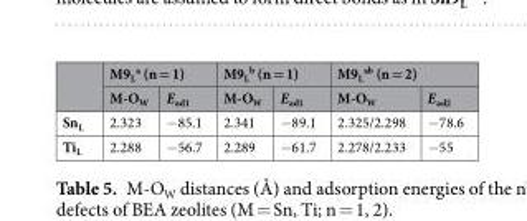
<table><thead><tr><td rowspan="2"></td><td colspan="2">M9<sub>L</sub> <sup>a</sup> (n = 1)</td><td colspan="2">M9<sub>L</sub> <sup>b</sup> (n = 1)</td><td colspan="2">M9<sub>L</sub> <sup>ab</sup> (n = 2)</td></tr><tr><td>M-O<sub>W</sub></td><td>E<sub>ad1</sub></td><td>M-O<sub>W</sub></td><td>E<sub>ad1</sub></td><td>M-O<sub>W</sub></td><td>E<sub>ad2</sub></td></tr></thead><tbody><tr><td>Sn<sub>L</sub></td><td>2.323</td><td>−85.1</td><td>2.341</td><td>−89.1</td><td>2.325/2.298</td><td>−78.6</td></tr><tr><td>Ti<sub>L</sub></td><td>2.288</td><td>−56.7</td><td>2.289</td><td>−61.7</td><td>2.278/2.233</td><td>−55</td></tr></tbody></table>